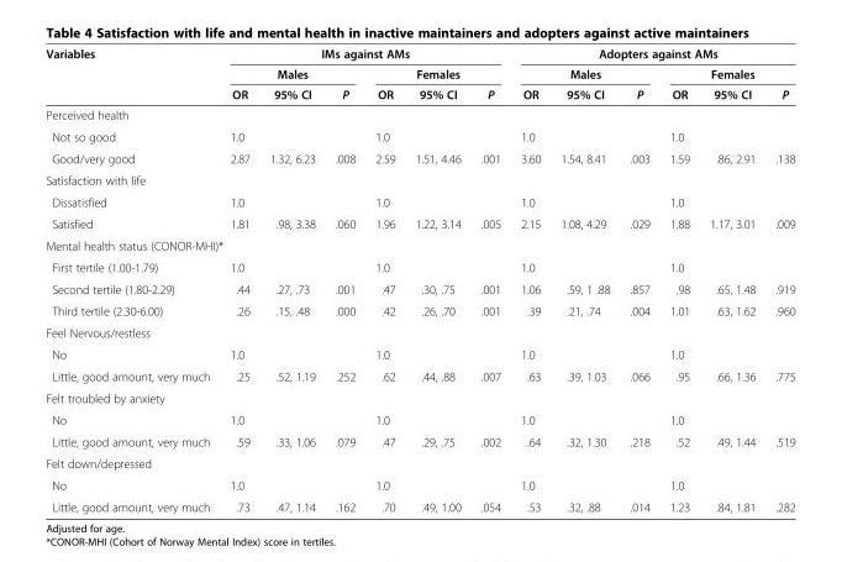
<table><thead><tr><td rowspan="3">Variables</td><td colspan="6">IMs against AMs</td><td colspan="6">Adopters against AMs</td></tr><tr><td colspan="3">Males</td><td colspan="3">Females</td><td colspan="3">Males</td><td colspan="3">Females</td></tr><tr><td>OR</td><td>95% CI</td><td>P</td><td>OR</td><td>95% CI</td><td>P</td><td>OR</td><td>95% CI</td><td>P</td><td>OR</td><td>95% CI</td><td>P</td></tr></thead><tbody><tr><td colspan="13">Perceived health</td></tr><tr><td>Not so good</td><td>1.0</td><td></td><td></td><td>1.0</td><td></td><td></td><td>1.0</td><td></td><td></td><td>1.0</td><td></td><td></td></tr><tr><td>Good/very good</td><td>2.87</td><td>1.32, 6.23</td><td>.008</td><td>2.59</td><td>1.51, 4.46</td><td>.001</td><td>3.60</td><td>1.54, 8.41</td><td>.003</td><td>1.59</td><td>.86, 2.91</td><td>.138</td></tr><tr><td colspan="13">Satisfaction with life</td></tr><tr><td>Dissatisfied</td><td>1.0</td><td></td><td></td><td>1.0</td><td></td><td></td><td>1.0</td><td></td><td></td><td>1.0</td><td></td><td></td></tr><tr><td>Satisfied</td><td>1.81</td><td>.98, 3.38</td><td>.060</td><td>1.96</td><td>1.22, 3.14</td><td>.005</td><td>2.15</td><td>1.08, 4.29</td><td>.029</td><td>1.88</td><td>1.17, 3.01</td><td>.009</td></tr><tr><td colspan="13">Mental health status (CONOR-MHI)*</td></tr><tr><td>First tertile (1.00-1.79)</td><td>1.0</td><td></td><td></td><td>1.0</td><td></td><td></td><td>1.0</td><td></td><td></td><td>1.0</td><td></td><td></td></tr><tr><td>Second tertile (1.80-2.29)</td><td>.44</td><td>.27, .73</td><td>.001</td><td>.47</td><td>.30, .75</td><td>.001</td><td>1.06</td><td>.59, 1 .88</td><td>.857</td><td>.98</td><td>.65, 1.48</td><td>.919</td></tr><tr><td>Third tertile (2.30-6.00)</td><td>.26</td><td>.15, .48</td><td>.000</td><td>.42</td><td>.26, .70</td><td>.001</td><td>.39</td><td>.21, .74</td><td>.004</td><td>1.01</td><td>.63, 1.62</td><td>.960</td></tr><tr><td colspan="13">Feel Nervous/restless</td></tr><tr><td>No</td><td>1.0</td><td></td><td></td><td>1.0</td><td></td><td></td><td>1.0</td><td></td><td></td><td>1.0</td><td></td><td></td></tr><tr><td>Little, good amount, very much</td><td>.25</td><td>.52, 1.19</td><td>.252</td><td>.62</td><td>.44, .88</td><td>.007</td><td>.63</td><td>.39, 1.03</td><td>.066</td><td>.95</td><td>.66, 1.36</td><td>.775</td></tr><tr><td colspan="13">Felt troubled by anxiety</td></tr><tr><td>No</td><td>1.0</td><td></td><td></td><td>1.0</td><td></td><td></td><td>1.0</td><td></td><td></td><td>1.0</td><td></td><td></td></tr><tr><td>Little, good amount, very much</td><td>.59</td><td>.33, 1.06</td><td>.079</td><td>.47</td><td>.29, .75</td><td>.002</td><td>.64</td><td>.32, 1.30</td><td>.218</td><td>.52</td><td>.49, 1.44</td><td>.519</td></tr><tr><td colspan="13">Felt down/depressed</td></tr><tr><td>No</td><td>1.0</td><td></td><td></td><td>1.0</td><td></td><td></td><td>1.0</td><td></td><td></td><td>1.0</td><td></td><td></td></tr><tr><td>Little, good amount, very much</td><td>.73</td><td>.47, 1.14</td><td>.162</td><td>.70</td><td>.49, 1.00</td><td>.054</td><td>.53</td><td>.32, .88</td><td>.014</td><td>1.23</td><td>.84, 1.81</td><td>.282</td></tr></tbody></table>